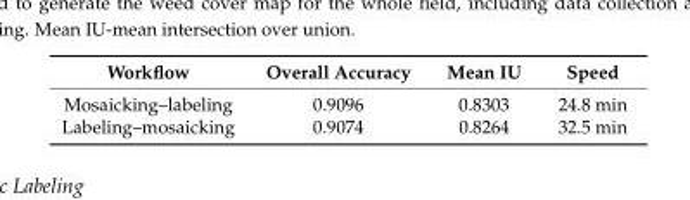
<table><thead><tr><td>Workflow</td><td>Overall Accuracy</td><td>Mean IU</td><td>Speed</td></tr></thead><tbody><tr><td>Mosaicking–labeling</td><td>0.9096</td><td>0.8303</td><td>24.8 min</td></tr><tr><td>Labeling–mosaicking</td><td>0.9074</td><td>0.8264</td><td>32.5 min</td></tr></tbody></table>